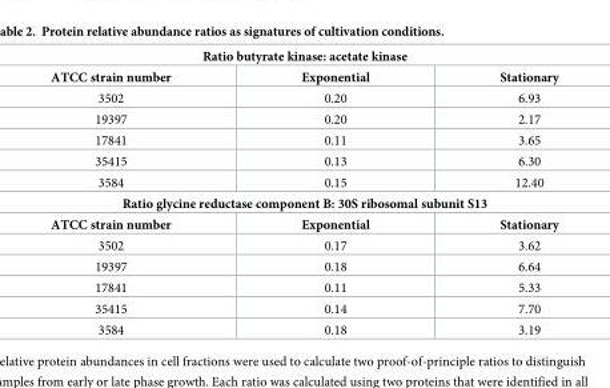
<table><tbody><tr><td colspan="3">Ratio butyrate kinase: acetate kinase</td></tr><tr><td>ATCC strain number</td><td>Exponential</td><td>Stationary</td></tr><tr><td>3502</td><td>0.20</td><td>6.93</td></tr><tr><td>19397</td><td>0.20</td><td>2.17</td></tr><tr><td>17841</td><td>0.11</td><td>3.65</td></tr><tr><td>35415</td><td>0.13</td><td>6.30</td></tr><tr><td>3584</td><td>0.15</td><td>12.40</td></tr><tr><td colspan="3">Ratio glycine reductase component B: 30S ribosomal subunit S13</td></tr><tr><td>ATCC strain number</td><td>Exponential</td><td>Stationary</td></tr><tr><td>3502</td><td>0.17</td><td>3.62</td></tr><tr><td>19397</td><td>0.18</td><td>6.64</td></tr><tr><td>17841</td><td>0.11</td><td>5.33</td></tr><tr><td>35415</td><td>0.14</td><td>7.70</td></tr><tr><td>3584</td><td>0.18</td><td>3.19</td></tr></tbody></table>